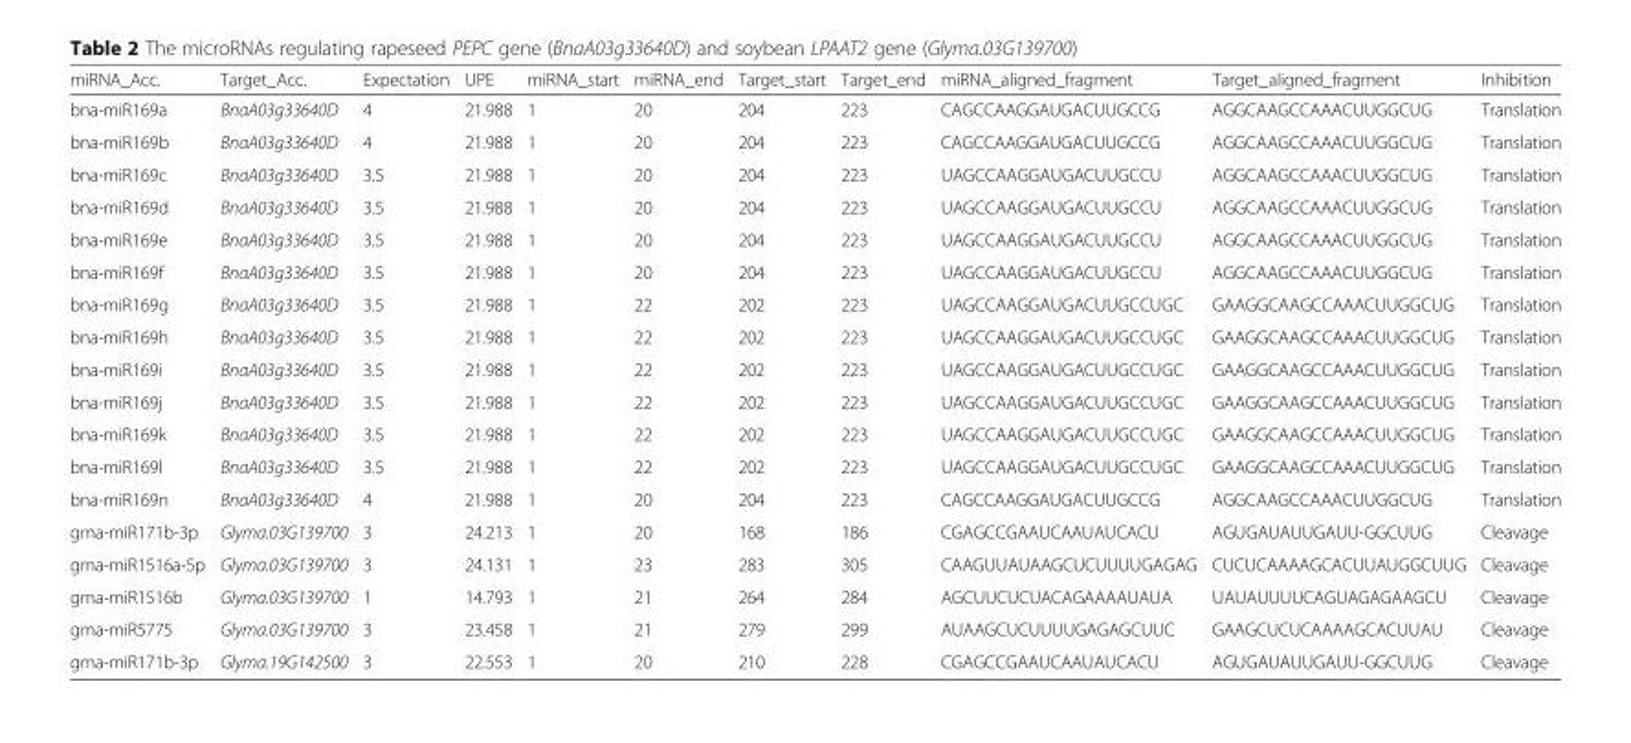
<table><thead><tr><td>miRNA_Acc.</td><td>Target_Acc.</td><td>Expectation</td><td>UPE</td><td>miRNA_start</td><td>miRNA_end</td><td>Target_start</td><td>Target_end</td><td>miRNA_aligned_fragment</td><td>Target_aligned_fragment</td><td>Inhibition</td></tr></thead><tbody><tr><td>bna-miR169a</td><td>BnaA03g33640D</td><td>4</td><td>21.988</td><td>1</td><td>20</td><td>204</td><td>223</td><td>CAGCCAAGGAUGACUUGCCG</td><td>AGGCAAGCCAAACUUGGCUG</td><td>Translation</td></tr><tr><td>bna-miR169b</td><td>BnaA03g33640D</td><td>4</td><td>21.988</td><td>1</td><td>20</td><td>204</td><td>223</td><td>CAGCCAAGGAUGACUUGCCG</td><td>AGGCAAGCCAAACUUGGCUG</td><td>Translation</td></tr><tr><td>bna-miR169c</td><td>BnaA03g33640D</td><td>3.5</td><td>21.988</td><td>1</td><td>20</td><td>204</td><td>223</td><td>UAGCCAAGGAUGACUUGCCU</td><td>AGGCAAGCCAAACUUGGCUG</td><td>Translation</td></tr><tr><td>bna-miR169d</td><td>BnaA03g33640D</td><td>3.5</td><td>21.988</td><td>1</td><td>20</td><td>204</td><td>223</td><td>UAGCCAAGGAUGACUUGCCU</td><td>AGGCAAGCCAAACUUGGCUG</td><td>Translation</td></tr><tr><td>bna-miR169e</td><td>BnaA03g33640D</td><td>3.5</td><td>21.988</td><td>1</td><td>20</td><td>204</td><td>223</td><td>UAGCCAAGGAUGACUUGCCU</td><td>AGGCAAGCCAAACUUGGCUG</td><td>Translation</td></tr><tr><td>bna-miR169f</td><td>BnaA03g33640D</td><td>3.5</td><td>21.988</td><td>1</td><td>20</td><td>204</td><td>223</td><td>UAGCCAAGGAUGACUUGCCU</td><td>AGGCAAGCCAAACUUGGCUG</td><td>Translation</td></tr><tr><td>bna-miR169g</td><td>BnaA03g33640D</td><td>3.5</td><td>21.988</td><td>1</td><td>22</td><td>202</td><td>223</td><td>UAGCCAAGGAUGACUUGCCUGC</td><td>GAAGGCAAGCCAAACUUGGCUG</td><td>Translation</td></tr><tr><td>bna-miR169h</td><td>BnaA03g33640D</td><td>3.5</td><td>21.988</td><td>1</td><td>22</td><td>202</td><td>223</td><td>UAGCCAAGGAUGACUUGCCUGC</td><td>GAAGGCAAGCCAAACUUGGCUG</td><td>Translation</td></tr><tr><td>bna-miR169i</td><td>BnaA03g33640D</td><td>3.5</td><td>21.988</td><td>1</td><td>22</td><td>202</td><td>223</td><td>UAGCCAAGGAUGACUUGCCUGC</td><td>GAAGGCAAGCCAAACUUGGCUG</td><td>Translation</td></tr><tr><td>bna-miR169j</td><td>BnaA03g33640D</td><td>3.5</td><td>21.988</td><td>1</td><td>22</td><td>202</td><td>223</td><td>UAGCCAAGGAUGACUUGCCUGC</td><td>GAAGGCAAGCCAAACUUGGCUG</td><td>Translation</td></tr><tr><td>bna-miR169k</td><td>BnaA03g33640D</td><td>3.5</td><td>21.988</td><td>1</td><td>22</td><td>202</td><td>223</td><td>UAGCCAAGGAUGACUUGCCUGC</td><td>GAAGGCAAGCCAAACUUGGCUG</td><td>Translation</td></tr><tr><td>bna-miR169l</td><td>BnaA03g33640D</td><td>3.5</td><td>21.988</td><td>1</td><td>22</td><td>202</td><td>223</td><td>UAGCCAAGGAUGACUUGCCUGC</td><td>GAAGGCAAGCCAAACUUGGCUG</td><td>Translation</td></tr><tr><td>bna-miR169n</td><td>BnaA03g33640D</td><td>4</td><td>21.988</td><td>1</td><td>20</td><td>204</td><td>223</td><td>CAGCCAAGGAUGACUUGCCG</td><td>AGGCAAGCCAAACUUGGCUG</td><td>Translation</td></tr><tr><td>gma-miR171b-3p</td><td>Glyma.03G139700</td><td>3</td><td>24.213</td><td>1</td><td>20</td><td>168</td><td>186</td><td>CGAGCCGAAUCAAUAUCACU</td><td>AGUGAUAUUGAUU-GGCUUG</td><td>Cleavage</td></tr><tr><td>gma-miR1516a-5p</td><td>Glyma.03G139700</td><td>3</td><td>24.131</td><td>1</td><td>23</td><td>283</td><td>305</td><td>CAAGUUAUAAGCUCUUUUGAGAG</td><td>CUCUCAAAAGCACUUAUGGCUUG</td><td>Cleavage</td></tr><tr><td>gma-miR1516b</td><td>Glyma.03G139700</td><td>1</td><td>14.793</td><td>1</td><td>21</td><td>264</td><td>284</td><td>AGCUUCUCUACAGAAAAUAUA</td><td>UAUAUUUUCAGUAGAGAAGCU</td><td>Cleavage</td></tr><tr><td>gma-miR5775</td><td>Glyma.03G139700</td><td>3</td><td>23.458</td><td>1</td><td>21</td><td>279</td><td>299</td><td>AUAAGCUCUUUUGAGAGCUUC</td><td>GAAGCUCUCAAAAGCACUUAU</td><td>Cleavage</td></tr><tr><td>gma-miR171b-3p</td><td>Glyma.19G142500</td><td>3</td><td>22.553</td><td>1</td><td>20</td><td>210</td><td>228</td><td>CGAGCCGAAUCAAUAUCACU</td><td>AGUGAUAUUGAUU-GGCUUG</td><td>Cleavage</td></tr></tbody></table>